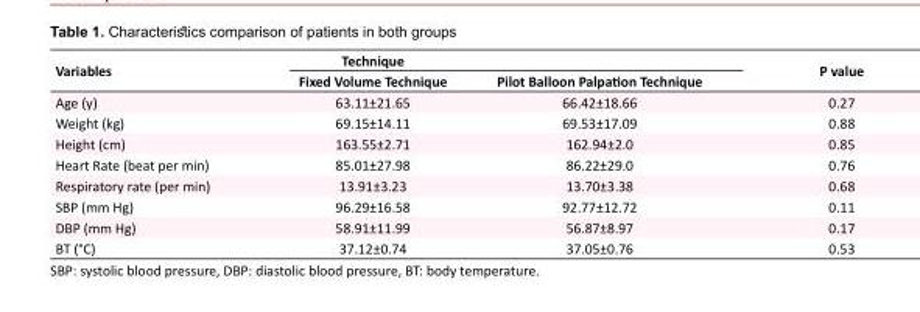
<table><tbody><tr><td rowspan="2">Variables</td><td>Technique</td><td></td><td rowspan="2">P value</td></tr><tr><td>Fixed Volume Technique</td><td>Pilot Balloon Palpation Technique</td></tr><tr><td>Age (y)</td><td>63.11±21.65</td><td>66.42±18.66</td><td>0.27</td></tr><tr><td>Weight (kg)</td><td>69.15±14.11</td><td>69.53±17.09</td><td>0.88</td></tr><tr><td>Height (cm)</td><td>163.55±2.71</td><td>162.94±2.0</td><td>0.85</td></tr><tr><td>Heart Rate (beat per min)</td><td>85.01±27.98</td><td>86.22±29.0</td><td>0.76</td></tr><tr><td>Respiratory rate (per min)</td><td>13.91±3.23</td><td>13.70±3.38</td><td>0.68</td></tr><tr><td>SBP (mm Hg)</td><td>96.29±16.58</td><td>92.77±12.72</td><td>0.11</td></tr><tr><td>DBP (mm Hg)</td><td>58.91±11.99</td><td>56.87±8.97</td><td>0.17</td></tr><tr><td>BT (°C)</td><td>37.12±0.74</td><td>37.05±0.76</td><td>0.53</td></tr></tbody></table>